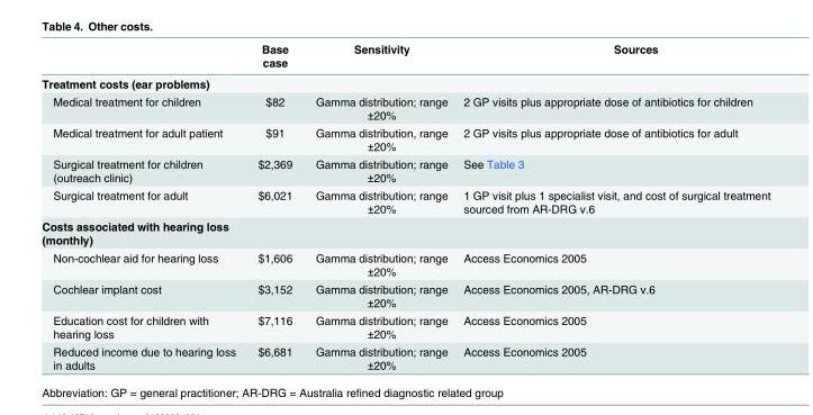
<table><thead><tr><td></td><td>Base case</td><td>Sensitivity</td><td>Sources</td></tr></thead><tbody><tr><td colspan="4">Treatment costs (ear problems)</td></tr><tr><td>Medical treatment for children</td><td>$82</td><td>Gamma distribution; range ±20%</td><td>2 GP visits plus appropriate dose of antibiotics for children</td></tr><tr><td>Medical treatment for adult patient</td><td>$91</td><td>Gamma distribution, range ±20%</td><td>2 GP visits plus appropriate dose of antibiotics for adult</td></tr><tr><td>Surgical treatment for children (outreach clinic)</td><td>$2,369</td><td>Gamma distribution; range ±20%</td><td>See Table 3</td></tr><tr><td>Surgical treatment for adult</td><td>$6,021</td><td>Gamma distribution; range ±20%</td><td>1 GP visit plus 1 specialist visit, and cost of surgical treatment sourced from AR-DRG v.6</td></tr><tr><td colspan="4">Costs associated with hearing loss (monthly)</td></tr><tr><td>Non-cochlear aid for hearing loss</td><td>$1,606</td><td>Gamma distribution; range ±20%</td><td>Access Economics 2005</td></tr><tr><td>Cochlear implant cost</td><td>$3,152</td><td>Gamma distribution; range ±20%</td><td>Access Economics 2005, AR-DRG v.6</td></tr><tr><td>Education cost for children with hearing loss</td><td>$7,116</td><td>Gamma distribution; range ±20%</td><td>Access Economics 2005</td></tr><tr><td>Reduced income due to hearing loss in adults</td><td>$6,681</td><td>Gamma distribution; range ±20%</td><td>Access Economics 2005</td></tr></tbody></table>